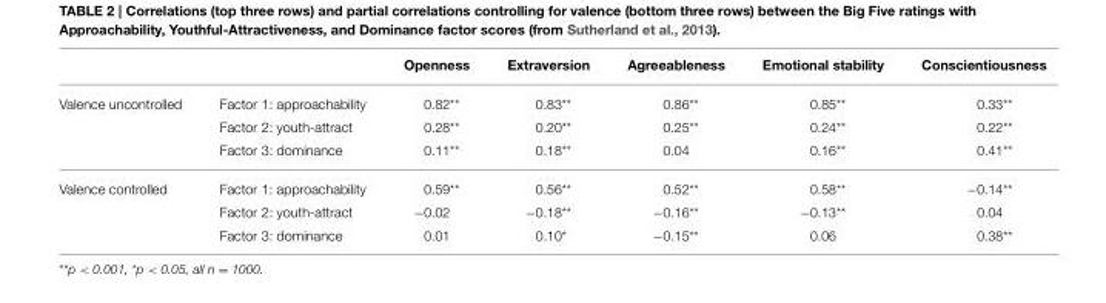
<table><thead><tr><td></td><td></td><td>Openness</td><td>Extraversion</td><td>Agreeableness</td><td>Emotional stability</td><td>Conscientiousness</td></tr></thead><tbody><tr><td rowspan="3">Valence uncontrolled</td><td>Factor 1: approachability</td><td>0.82**</td><td>0.83**</td><td>0.86**</td><td>0.85**</td><td>0.33**</td></tr><tr><td>Factor 2: youth-attract</td><td>0.28**</td><td>0.20**</td><td>0.25**</td><td>0.24**</td><td>0.22**</td></tr><tr><td>Factor 3: dominance</td><td>0.11**</td><td>0.18**</td><td>0.04</td><td>0.16**</td><td>0.41**</td></tr><tr><td rowspan="3">Valence controlled</td><td>Factor 1: approachability</td><td>0.59**</td><td>0.56**</td><td>0.52**</td><td>0.58**</td><td>−0.14**</td></tr><tr><td>Factor 2: youth-attract</td><td>−0.02</td><td>−0.18**</td><td>−0.16**</td><td>−0.13**</td><td>0.04</td></tr><tr><td>Factor 3: dominance</td><td>0.01</td><td>0.10*</td><td>−0.15**</td><td>0.06</td><td>0.38**</td></tr></tbody></table>